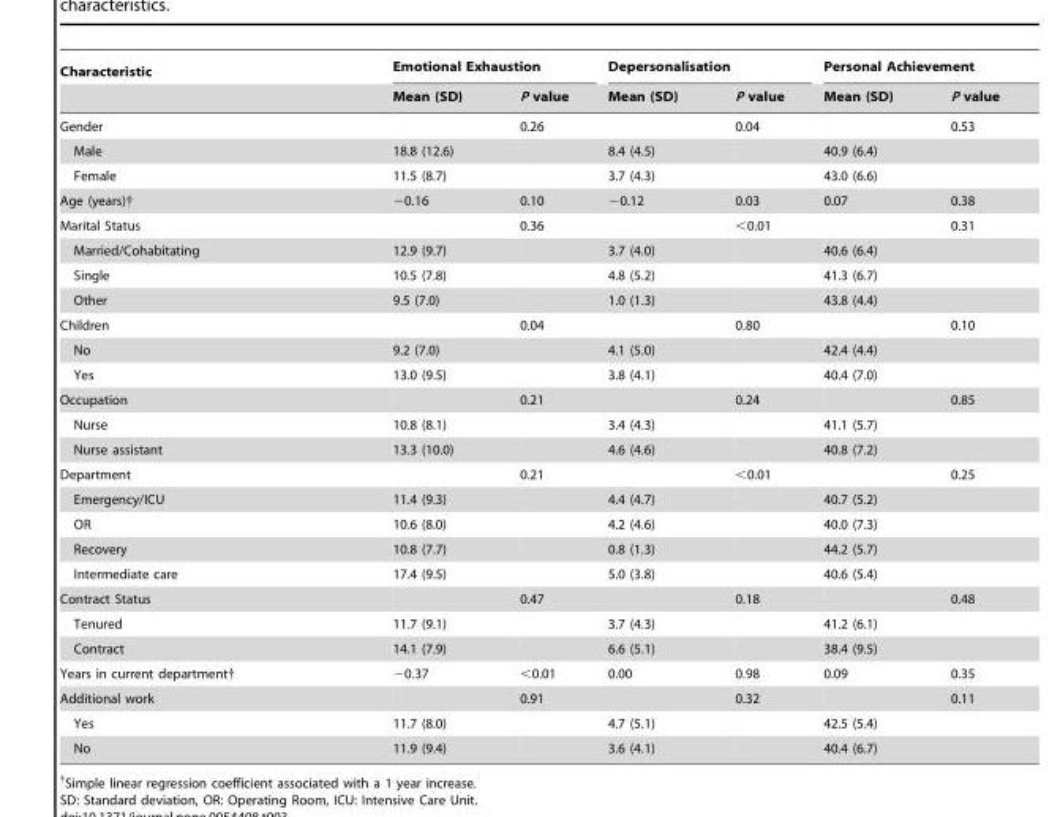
<table><thead><tr><td rowspan="2">Characteristic</td><td colspan="2">Emotional Exhaustion</td><td colspan="2">Depersonalisation</td><td colspan="2">Personal Achievement</td></tr><tr><td>Mean (SD)</td><td>P value</td><td>Mean (SD)</td><td>P value</td><td>Mean (SD)</td><td>P value</td></tr></thead><tbody><tr><td>Gender</td><td></td><td>0.26</td><td></td><td>0.04</td><td></td><td>0.53</td></tr><tr><td>Male</td><td>18.8 (12.6)</td><td></td><td>8.4 (4.5)</td><td></td><td>40.9 (6.4)</td><td></td></tr><tr><td>Female</td><td>11.5 (8.7)</td><td></td><td>3.7 (4.3)</td><td></td><td>43.0 (6.6)</td><td></td></tr><tr><td>Age (years)†</td><td>−0.16</td><td>0.10</td><td>−0.12</td><td>0.03</td><td>0.07</td><td>0.38</td></tr><tr><td>Marital Status</td><td></td><td>0.36</td><td></td><td>&lt;0.01</td><td></td><td>0.31</td></tr><tr><td>Married/Cohabitating</td><td>12.9 (9.7)</td><td></td><td>3.7 (4.0)</td><td></td><td>40.6 (6.4)</td><td></td></tr><tr><td>Single</td><td>10.5 (7.8)</td><td></td><td>4.8 (5.2)</td><td></td><td>41.3 (6.7)</td><td></td></tr><tr><td>Other</td><td>9.5 (7.0)</td><td></td><td>1.0 (1.3)</td><td></td><td>43.8 (4.4)</td><td></td></tr><tr><td>Children</td><td></td><td>0.04</td><td></td><td>0.80</td><td></td><td>0.10</td></tr><tr><td>No</td><td>9.2 (7.0)</td><td></td><td>4.1 (5.0)</td><td></td><td>42.4 (4.4)</td><td></td></tr><tr><td>Yes</td><td>13.0 (9.5)</td><td></td><td>3.8 (4.1)</td><td></td><td>40.4 (7.0)</td><td></td></tr><tr><td>Occupation</td><td></td><td>0.21</td><td></td><td>0.24</td><td></td><td>0.85</td></tr><tr><td>Nurse</td><td>10.8 (8.1)</td><td></td><td>3.4 (4.3)</td><td></td><td>41.1 (5.7)</td><td></td></tr><tr><td>Nurse assistant</td><td>13.3 (10.0)</td><td></td><td>4.6 (4.6)</td><td></td><td>40.8 (7.2)</td><td></td></tr><tr><td>Department</td><td></td><td>0.21</td><td></td><td>&lt;0.01</td><td></td><td>0.25</td></tr><tr><td>Emergency/ICU</td><td>11.4 (9.3)</td><td></td><td>4.4 (4.7)</td><td></td><td>40.7 (5.2)</td><td></td></tr><tr><td>OR</td><td>10.6 (8.0)</td><td></td><td>4.2 (4.6)</td><td></td><td>40.0 (7.3)</td><td></td></tr><tr><td>Recovery</td><td>10.8 (7.7)</td><td></td><td>0.8 (1.3)</td><td></td><td>44.2 (5.7)</td><td></td></tr><tr><td>Intermediate care</td><td>17.4 (9.5)</td><td></td><td>5.0 (3.8)</td><td></td><td>40.6 (5.4)</td><td></td></tr><tr><td>Contract Status</td><td></td><td>0.47</td><td></td><td>0.18</td><td></td><td>0.48</td></tr><tr><td>Tenured</td><td>11.7 (9.1)</td><td></td><td>3.7 (4.3)</td><td></td><td>41.2 (6.1)</td><td></td></tr><tr><td>Contract</td><td>14.1 (7.9)</td><td></td><td>6.6 (5.1)</td><td></td><td>38.4 (9.5)</td><td></td></tr><tr><td>Years in current department†</td><td>−0.37</td><td>&lt;0.01</td><td>0.00</td><td>0.98</td><td>0.09</td><td>0.35</td></tr><tr><td>Additional work</td><td></td><td>0.91</td><td></td><td>0.32</td><td></td><td>0.11</td></tr><tr><td>Yes</td><td>11.7 (8.0)</td><td></td><td>4.7 (5.1)</td><td></td><td>42.5 (5.4)</td><td></td></tr><tr><td>No</td><td>11.9 (9.4)</td><td></td><td>3.6 (4.1)</td><td></td><td>40.4 (6.7)</td><td></td></tr></tbody></table>